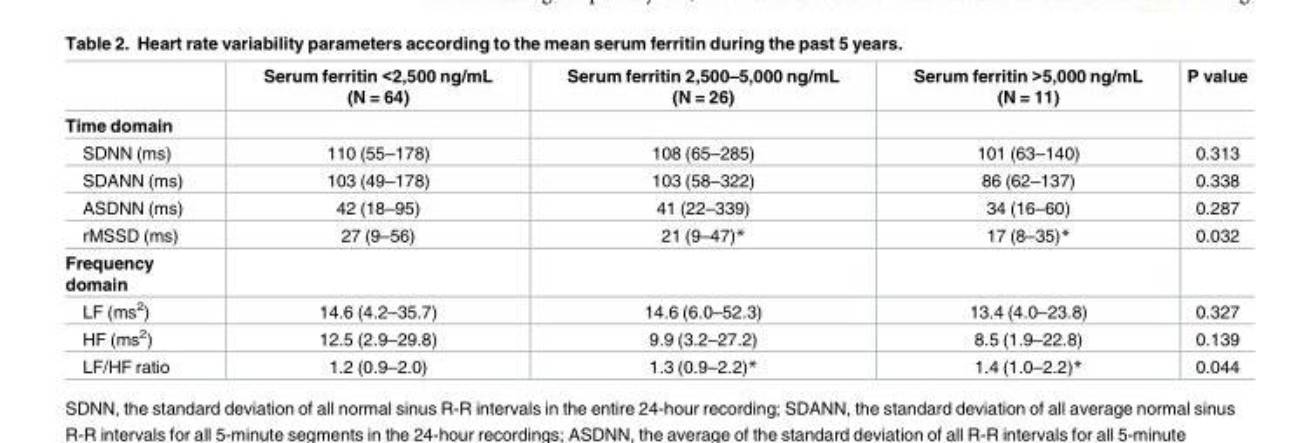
<table><thead><tr><td></td><td>Serum ferritin &lt;2,500 ng/mL (N = 64)</td><td>Serum ferritin 2,500–5,000 ng/mL (N = 26)</td><td>Serum ferritin &gt;5,000 ng/mL (N = 11)</td><td>P value</td></tr></thead><tbody><tr><td colspan="5">Time domain</td></tr><tr><td>SDNN (ms)</td><td>110 (55–178)</td><td>108 (65–285)</td><td>101 (63–140)</td><td>0.313</td></tr><tr><td>SDANN (ms)</td><td>103 (49–178)</td><td>103 (58–322)</td><td>86 (62–137)</td><td>0.338</td></tr><tr><td>ASDNN (ms)</td><td>42 (18–95)</td><td>41 (22–339)</td><td>34 (16–60)</td><td>0.287</td></tr><tr><td>rMSSD (ms)</td><td>27 (9–56)</td><td>21 (9–47)*</td><td>17 (8–35)*</td><td>0.032</td></tr><tr><td colspan="5">Frequency domain</td></tr><tr><td>LF (ms<sup>2</sup>)</td><td>14.6 (4.2–35.7)</td><td>14.6 (6.0–52.3)</td><td>13.4 (4.0–23.8)</td><td>0.327</td></tr><tr><td>HF (ms<sup>2</sup>)</td><td>12.5 (2.9–29.8)</td><td>9.9 (3.2–27.2)</td><td>8.5 (1.9–22.8)</td><td>0.139</td></tr><tr><td>LF/HF ratio</td><td>1.2 (0.9–2.0)</td><td>1.3 (0.9–2.2)*</td><td>1.4 (1.0–2.2)*</td><td>0.044</td></tr></tbody></table>